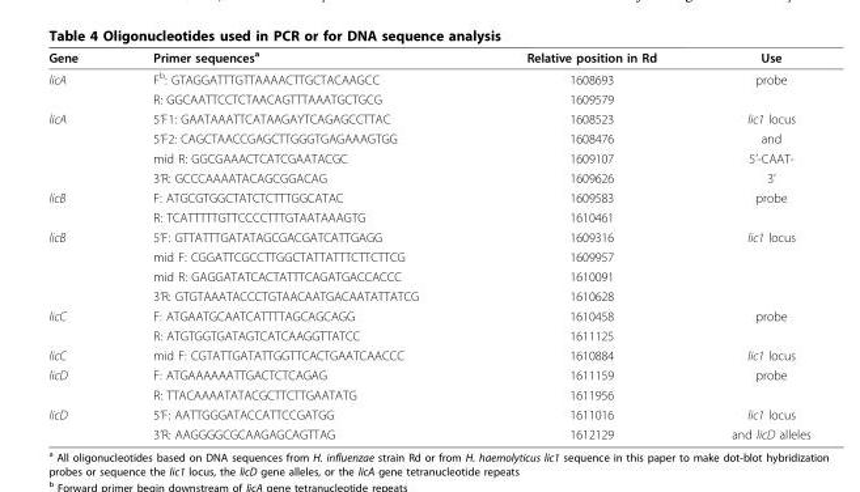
<table><thead><tr><td>Gene</td><td>Primer sequences<sup>a</sup></td><td>Relative position in Rd</td><td>Use</td></tr></thead><tbody><tr><td rowspan="2">licA</td><td>F<sup>b</sup>: GTAGGATTTGTTAAAACTTGCTACAAGCC</td><td>1608693</td><td>probe</td></tr><tr><td>R: GGCAATTCCTCTAACAGTTTAAATGCTGCG</td><td>1609579</td><td></td></tr><tr><td rowspan="4">licA</td><td>5’F1: GAATAAATTCATAAGAYTCAGAGCCTTAC</td><td>1608523</td><td>lic1 locus</td></tr><tr><td>5’F2: CAGCTAACCGAGCTTGGGTGAGAAAGTGG</td><td>1608476</td><td>and</td></tr><tr><td>mid R: GGCGAAACTCATCGAATACGC</td><td>1609107</td><td>5’-CAAT-</td></tr><tr><td>3’R: GCCCAAAATACAGCGGACAG</td><td>1609626</td><td>3’</td></tr><tr><td rowspan="2">licB</td><td>F: ATGCGTGGCTATCTCTTTGGCATAC</td><td>1609583</td><td>probe</td></tr><tr><td>R: TCATTTTTGTTCCCCTTTGTAATAAAGTG</td><td>1610461</td><td></td></tr><tr><td rowspan="4">licB</td><td>5’F: GTTATTTGATATAGCGACGATCATTGAGG</td><td>1609316</td><td>lic1 locus</td></tr><tr><td>mid F: CGGATTCGCCTTGGCTATTATTTCTTCTTCG</td><td>1609957</td><td></td></tr><tr><td>mid R: GAGGATATCACTATTTCAGATGACCACCC</td><td>1610091</td><td></td></tr><tr><td>3’R: GTGTAAATACCCTGTAACAATGACAATATTATCG</td><td>1610628</td><td></td></tr><tr><td rowspan="2">licC</td><td>F: ATGAATGCAATCATTTTAGCAGCAGG</td><td>1610458</td><td>probe</td></tr><tr><td>R: ATGTGGTGATAGTCATCAAGGTTATCC</td><td>1611125</td><td></td></tr><tr><td>licC</td><td>mid F: CGTATTGATATTGGTTCACTGAATCAACCC</td><td>1610884</td><td>lic1 locus</td></tr><tr><td rowspan="2">licD</td><td>F: ATGAAAAAATTGACTCTCAGAG</td><td>1611159</td><td>probe</td></tr><tr><td>R: TTACAAAATATACGCTTCTTGAATATG</td><td>1611956</td><td></td></tr><tr><td rowspan="2">licD</td><td>5’F: AATTGGGATACCATTCCGATGG</td><td>1611016</td><td>lic1 locus</td></tr><tr><td>3’R: AAGGGGCGCAAGAGCAGTTAG</td><td>1612129</td><td>and licD alleles</td></tr></tbody></table>